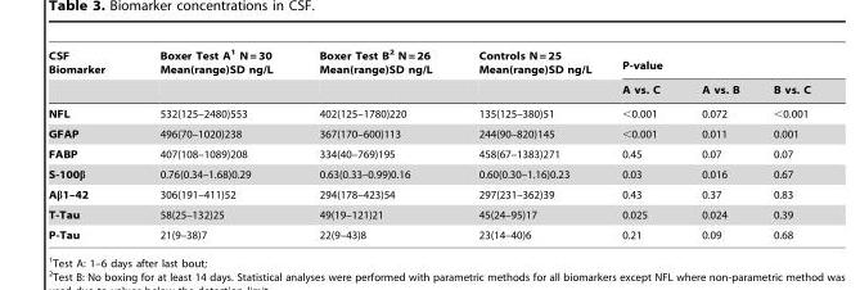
<table><thead><tr><td rowspan="2">CSF Biomarker</td><td rowspan="2">Boxer Test A<sup>1</sup> N = 30 Mean(range)SD ng/L</td><td rowspan="2">Boxer Test B<sup>2</sup> N = 26 Mean(range)SD ng/L</td><td rowspan="2">Controls N = 25 Mean(range)SD ng/L</td><td colspan="3">P-value</td></tr><tr><td>A vs. C</td><td>A vs. B</td><td>B vs. C</td></tr></thead><tbody><tr><td>NFL</td><td>532(125–2480)553</td><td>402(125–1780)220</td><td>135(125–380)51</td><td>&lt;0.001</td><td>0.072</td><td>&lt;0.001</td></tr><tr><td>GFAP</td><td>496(70–1020)238</td><td>367(170–600)113</td><td>244(90–820)145</td><td>&lt;0.001</td><td>0.011</td><td>0.001</td></tr><tr><td>FABP</td><td>407(108–1089)208</td><td>334(40–769)195</td><td>458(67–1383)271</td><td>0.45</td><td>0.07</td><td>0.07</td></tr><tr><td>S-100β</td><td>0.76(0.34–1.68)0.29</td><td>0.63(0.33–0.99)0.16</td><td>0.60(0.30–1.16)0.23</td><td>0.03</td><td>0.016</td><td>0.67</td></tr><tr><td>Aβ1–42</td><td>306(191–411)52</td><td>294(178–423)54</td><td>297(231–362)39</td><td>0.43</td><td>0.37</td><td>0.83</td></tr><tr><td>T-Tau</td><td>58(25–132)25</td><td>49(19–121)21</td><td>45(24–95)17</td><td>0.025</td><td>0.024</td><td>0.39</td></tr><tr><td>P-Tau</td><td>21(9–38)7</td><td>22(9–43)8</td><td>23(14–40)6</td><td>0.21</td><td>0.09</td><td>0.68</td></tr></tbody></table>